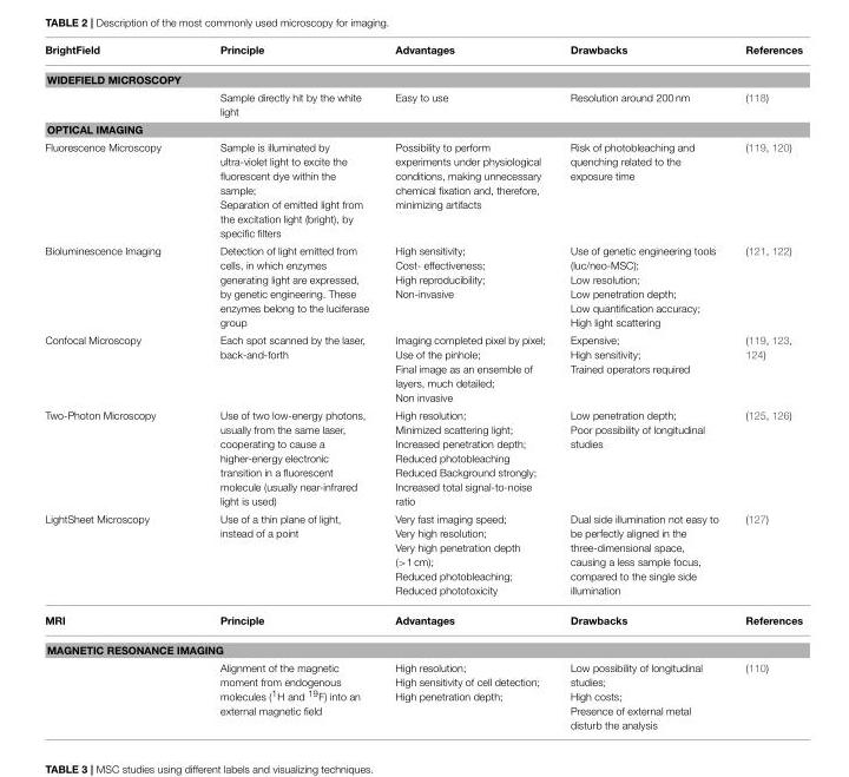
<table><thead><tr><td>BrightField</td><td>Principle</td><td>Advantages</td><td>Drawbacks</td><td>References</td></tr></thead><tbody><tr><td colspan="5">WIDEFIELD MICROSCOPY</td></tr><tr><td></td><td>Sample directly hit by the white light</td><td>Easy to use</td><td>Resolution around 200 nm</td><td>(118)</td></tr><tr><td colspan="5">OPTICAL IMAGING</td></tr><tr><td>Fluorescence Microscopy</td><td>Sample is illuminated by ultra-violet light to excite the fluorescent dye within the sample; Separation of emitted light from the excitation light (bright), by specific filters</td><td>Possibility to perform experiments under physiological conditions, making unnecessary chemical fixation and, therefore, minimizing artifacts</td><td>Risk of photobleaching and quenching related to the exposure time</td><td>(119, 120)</td></tr><tr><td>Bioluminescence Imaging</td><td>Detection of light emitted from cells, in which enzymes generating light are expressed, by genetic engineering. These enzymes belong to the luciferase group</td><td>High sensitivity; Cost- effectiveness; High reproducibility; Non-invasive</td><td>Use of genetic engineering tools (luc/neo-MSC); Low resolution; Low penetration depth; Low quantification accuracy; High light scattering</td><td>(121, 122)</td></tr><tr><td>Confocal Microscopy</td><td>Each spot scanned by the laser, back-and-forth</td><td>Imaging completed pixel by pixel; Use of the pinhole; Final image as an ensemble of layers, much detailed; Non invasive</td><td>Expensive; High sensitivity; Trained operators required</td><td>(119, 123, 124)</td></tr><tr><td>Two-Photon Microscopy</td><td>Use of two low-energy photons, usually from the same laser, cooperating to cause a higher-energy electronic transition in a fluorescent molecule (usually near-infrared light is used)</td><td>High resolution; Minimized scattering light; Increased penetration depth; Reduced photobleaching Reduced Background strongly; Increased total signal-to-noise ratio</td><td>Low penetration depth; Poor possibility of longitudinal studies</td><td>(125, 126)</td></tr><tr><td>LightSheet Microscopy</td><td>Use of a thin plane of light, instead of a point</td><td>Very fast imaging speed; Very high resolution; Very high penetration depth (&gt;1 cm); Reduced photobleaching; Reduced phototoxicity</td><td>Dual side illumination not easy to be perfectly aligned in the three-dimensional space, causing a less sample focus, compared to the single side illumination</td><td>(127)</td></tr><tr><td>MRI</td><td>Principle</td><td>Advantages</td><td>Drawbacks</td><td>References</td></tr><tr><td colspan="5">MAGNETIC RESONANCE IMAGING</td></tr><tr><td></td><td>Alignment of the magnetic moment from endogenous molecules (<sup>1</sup>H and <sup>19</sup>F) into an external magnetic field</td><td>High resolution; High sensitivity of cell detection; High penetration depth;</td><td>Low possibility of longitudinal studies; High costs; Presence of external metal disturb the analysis</td><td>(110)</td></tr></tbody></table>